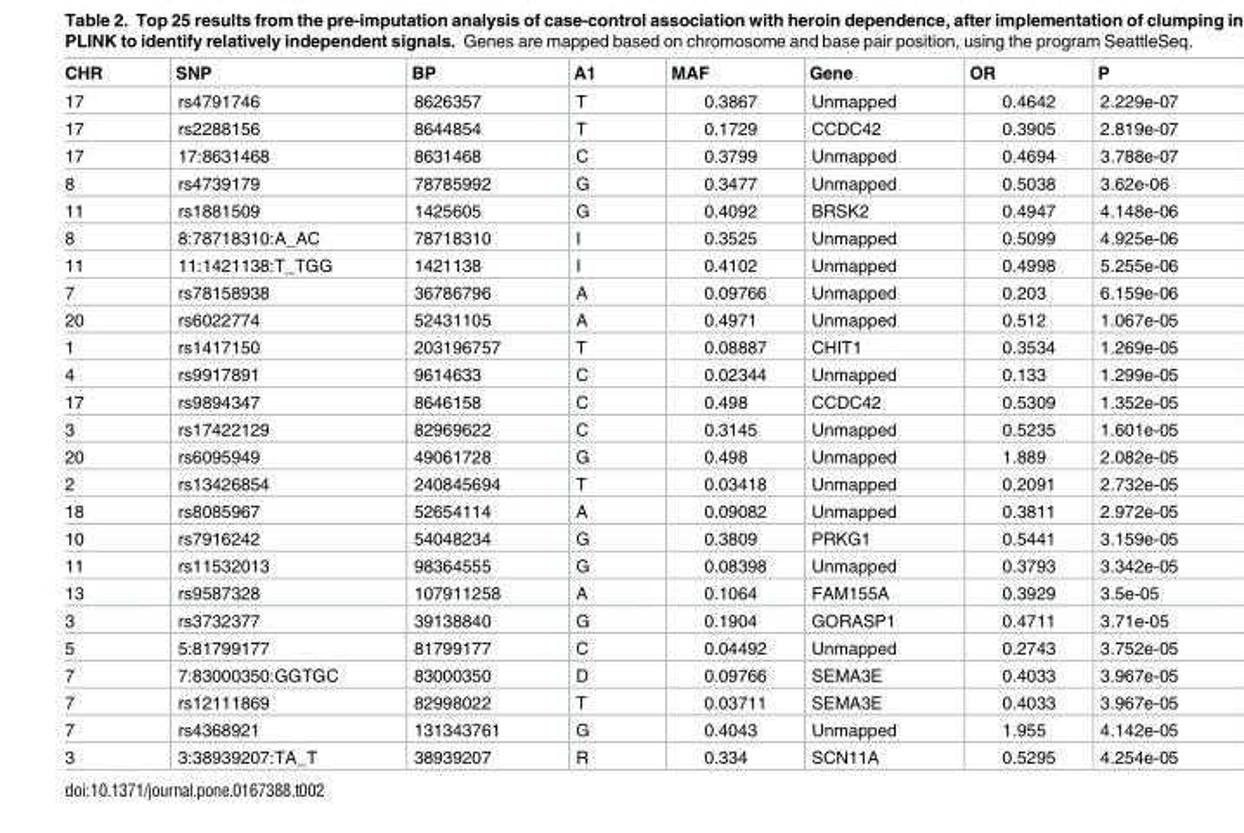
<table><thead><tr><td>CHR</td><td>SNP</td><td>BP</td><td>A1</td><td>MAF</td><td>Gene</td><td>OR</td><td>P</td></tr></thead><tbody><tr><td>17</td><td>rs4791746</td><td>8626357</td><td>T</td><td>0.3867</td><td>Unmapped</td><td>0.4642</td><td>2.229e-07</td></tr><tr><td>17</td><td>rs2288156</td><td>8644854</td><td>T</td><td>0.1729</td><td>CCDC42</td><td>0.3905</td><td>2.819e-07</td></tr><tr><td>17</td><td>17:8631468</td><td>8631468</td><td>C</td><td>0.3799</td><td>Unmapped</td><td>0.4694</td><td>3.788e-07</td></tr><tr><td>8</td><td>rs4739179</td><td>78785992</td><td>G</td><td>0.3477</td><td>Unmapped</td><td>0.5038</td><td>3.62e-06</td></tr><tr><td>11</td><td>rs1881509</td><td>1425605</td><td>G</td><td>0.4092</td><td>BRSK2</td><td>0.4947</td><td>4.148e-06</td></tr><tr><td>8</td><td>8:78718310:A_AC</td><td>78718310</td><td>I</td><td>0.3525</td><td>Unmapped</td><td>0.5099</td><td>4.925e-06</td></tr><tr><td>11</td><td>11:1421138:T_TGG</td><td>1421138</td><td>I</td><td>0.4102</td><td>Unmapped</td><td>0.4998</td><td>5.255e-06</td></tr><tr><td>7</td><td>rs78158938</td><td>36786796</td><td>A</td><td>0.09766</td><td>Unmapped</td><td>0.203</td><td>6.159e-06</td></tr><tr><td>20</td><td>rs6022774</td><td>52431105</td><td>A</td><td>0.4971</td><td>Unmapped</td><td>0.512</td><td>1.067e-05</td></tr><tr><td>1</td><td>rs1417150</td><td>203196757</td><td>T</td><td>0.08887</td><td>CHIT1</td><td>0.3534</td><td>1.269e-05</td></tr><tr><td>4</td><td>rs9917891</td><td>9614633</td><td>C</td><td>0.02344</td><td>Unmapped</td><td>0.133</td><td>1.299e-05</td></tr><tr><td>17</td><td>rs9894347</td><td>8646158</td><td>C</td><td>0.498</td><td>CCDC42</td><td>0.5309</td><td>1.352e-05</td></tr><tr><td>3</td><td>rs17422129</td><td>82969622</td><td>C</td><td>0.3145</td><td>Unmapped</td><td>0.5235</td><td>1.601e-05</td></tr><tr><td>20</td><td>rs6095949</td><td>49061728</td><td>G</td><td>0.498</td><td>Unmapped</td><td>1.889</td><td>2.082e-05</td></tr><tr><td>2</td><td>rs13426854</td><td>240845694</td><td>T</td><td>0.03418</td><td>Unmapped</td><td>0.2091</td><td>2.732e-05</td></tr><tr><td>18</td><td>rs8085967</td><td>52654114</td><td>A</td><td>0.09082</td><td>Unmapped</td><td>0.3811</td><td>2.972e-05</td></tr><tr><td>10</td><td>rs7916242</td><td>54048234</td><td>G</td><td>0.3809</td><td>PRKG1</td><td>0.5441</td><td>3.159e-05</td></tr><tr><td>11</td><td>rs11532013</td><td>98364555</td><td>G</td><td>0.08398</td><td>Unmapped</td><td>0.3793</td><td>3.342e-05</td></tr><tr><td>13</td><td>rs9587328</td><td>107911258</td><td>A</td><td>0.1064</td><td>FAM155A</td><td>0.3929</td><td>3.5e-05</td></tr><tr><td>3</td><td>rs3732377</td><td>39138840</td><td>G</td><td>0.1904</td><td>GORASP1</td><td>0.4711</td><td>3.71e-05</td></tr><tr><td>5</td><td>5:81799177</td><td>81799177</td><td>C</td><td>0.04492</td><td>Unmapped</td><td>0.2743</td><td>3.752e-05</td></tr><tr><td>7</td><td>7:83000350:GGTGC</td><td>83000350</td><td>D</td><td>0.09766</td><td>SEMA3E</td><td>0.4033</td><td>3.967e-05</td></tr><tr><td>7</td><td>rs12111869</td><td>82998022</td><td>T</td><td>0.03711</td><td>SEMA3E</td><td>0.4033</td><td>3.967e-05</td></tr><tr><td>7</td><td>rs4368921</td><td>131343761</td><td>G</td><td>0.4043</td><td>Unmapped</td><td>1.955</td><td>4.142e-05</td></tr><tr><td>3</td><td>3:38939207:TA_T</td><td>38939207</td><td>R</td><td>0.334</td><td>SCN11A</td><td>0.5295</td><td>4.254e-05</td></tr></tbody></table>